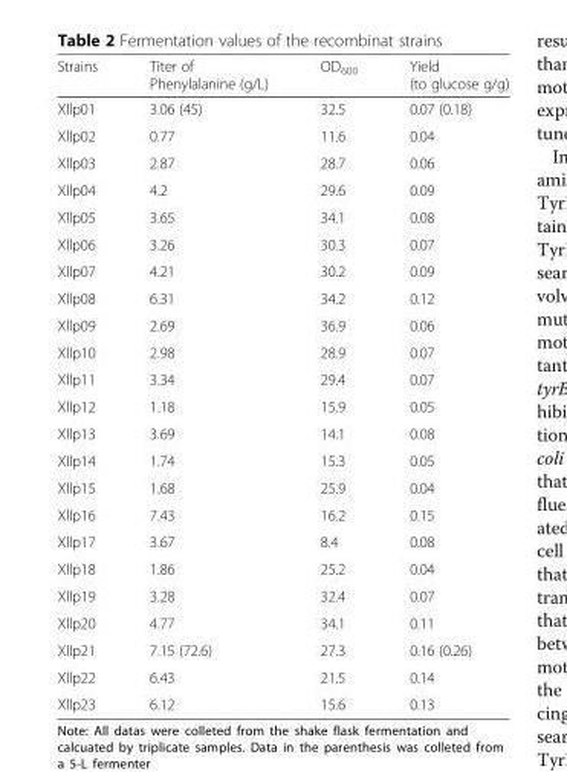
<table><thead><tr><td>Strains</td><td>Titer of Phenylalanine (g/L)</td><td>OD<sub>600</sub></td><td>Yield (to glucose g/g)</td></tr></thead><tbody><tr><td>Xllp01</td><td>3.06 (45)</td><td>32.5</td><td>0.07 (0.18)</td></tr><tr><td>Xllp02</td><td>0.77</td><td>11.6</td><td>0.04</td></tr><tr><td>Xllp03</td><td>2.87</td><td>28.7</td><td>0.06</td></tr><tr><td>Xllp04</td><td>4.2</td><td>29.6</td><td>0.09</td></tr><tr><td>Xllp05</td><td>3.65</td><td>34.1</td><td>0.08</td></tr><tr><td>Xllp06</td><td>3.26</td><td>30.3</td><td>0.07</td></tr><tr><td>Xllp07</td><td>4.21</td><td>30.2</td><td>0.09</td></tr><tr><td>Xllp08</td><td>6.31</td><td>34.2</td><td>0.12</td></tr><tr><td>Xllp09</td><td>2.69</td><td>36.9</td><td>0.06</td></tr><tr><td>Xllp10</td><td>2.98</td><td>28.9</td><td>0.07</td></tr><tr><td>Xllp11</td><td>3.34</td><td>29.4</td><td>0.07</td></tr><tr><td>Xllp12</td><td>1.18</td><td>15.9</td><td>0.05</td></tr><tr><td>Xllp13</td><td>3.69</td><td>14.1</td><td>0.08</td></tr><tr><td>Xllp14</td><td>1.74</td><td>15.3</td><td>0.05</td></tr><tr><td>Xllp15</td><td>1.68</td><td>25.9</td><td>0.04</td></tr><tr><td>Xllp16</td><td>7.43</td><td>16.2</td><td>0.15</td></tr><tr><td>Xllp17</td><td>3.67</td><td>8.4</td><td>0.08</td></tr><tr><td>Xllp18</td><td>1.86</td><td>25.2</td><td>0.04</td></tr><tr><td>Xllp19</td><td>3.28</td><td>32.4</td><td>0.07</td></tr><tr><td>Xllp20</td><td>4.77</td><td>34.1</td><td>0.11</td></tr><tr><td>Xllp21</td><td>7.15 (72.6)</td><td>27.3</td><td>0.16 (0.26)</td></tr><tr><td>Xllp22</td><td>6.43</td><td>21.5</td><td>0.14</td></tr><tr><td>Xllp23</td><td>6.12</td><td>15.6</td><td>0.13</td></tr></tbody></table>